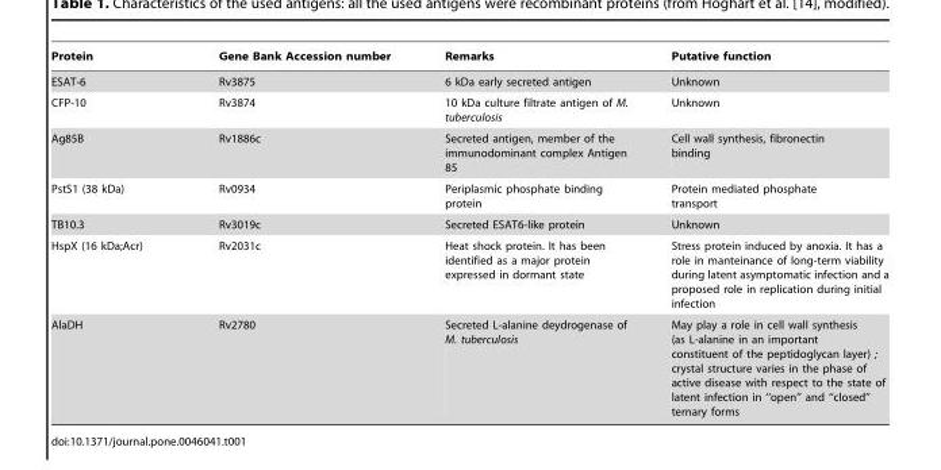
<table><thead><tr><td>Protein</td><td>Gene Bank Accession number</td><td>Remarks</td><td>Putative function</td></tr></thead><tbody><tr><td>ESAT-6</td><td>Rv3875</td><td>6 kDa early secreted antigen</td><td>Unknown</td></tr><tr><td>CFP-10</td><td>Rv3874</td><td>10 kDa culture filtrate antigen of M. tuberculosis</td><td>Unknown</td></tr><tr><td>Ag85B</td><td>Rv1886c</td><td>Secreted antigen, member of the immunodominant complex Antigen 85</td><td>Cell wall synthesis, fibronectin binding</td></tr><tr><td>PstS1 (38 kDa)</td><td>Rv0934</td><td>Periplasmic phosphate binding protein</td><td>Protein mediated phosphate transport</td></tr><tr><td>TB10.3</td><td>Rv3019c</td><td>Secreted ESAT6-like protein</td><td>Unknown</td></tr><tr><td>HspX (16 kDa;Acr)</td><td>Rv2031c</td><td>Heat shock protein. It has been identified as a major protein expressed in dormant state</td><td>Stress protein induced by anoxia. It has a role in manteinance of long-term viability during latent asymptomatic infection and a proposed role in replication during initial infection</td></tr><tr><td>AlaDH</td><td>Rv2780</td><td>Secreted L-alanine deydrogenase of M. tuberculosis</td><td>May play a role in cell wall synthesis (as L-alanine in an important constituent of the peptidoglycan layer) ; crystal structure varies in the phase of active disease with respect to the state of latent infection in ‘‘open’’ and ‘‘closed’’ ternary forms</td></tr></tbody></table>